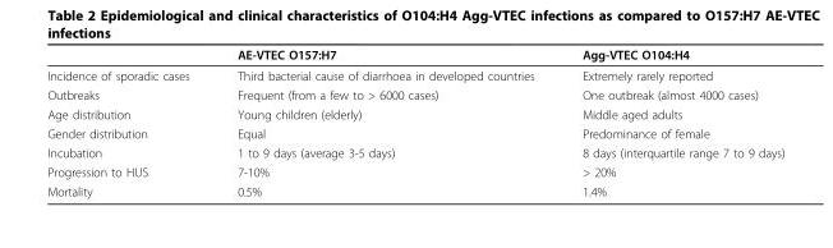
<table><thead><tr><td></td><td>AE-VTEC O157:H7</td><td>Agg-VTEC O104:H4</td></tr></thead><tbody><tr><td>Incidence of sporadic cases</td><td>Third bacterial cause of diarrhoea in developed countries</td><td>Extremely rarely reported</td></tr><tr><td>Outbreaks</td><td>Frequent (from a few to &gt; 6000 cases)</td><td>One outbreak (almost 4000 cases)</td></tr><tr><td>Age distribution</td><td>Young children (elderly)</td><td>Middle aged adults</td></tr><tr><td>Gender distribution</td><td>Equal</td><td>Predominance of female</td></tr><tr><td>Incubation</td><td>1 to 9 days (average 3-5 days)</td><td>8 days (interquartile range 7 to 9 days)</td></tr><tr><td>Progression to HUS</td><td>7-10%</td><td>&gt; 20%</td></tr><tr><td>Mortality</td><td>0.5%</td><td>1.4%</td></tr></tbody></table>